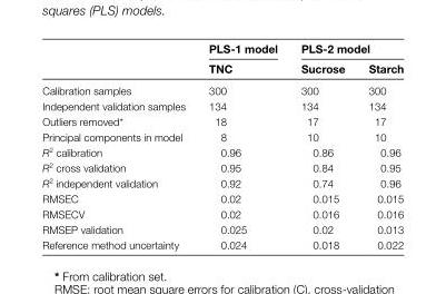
<table><thead><tr><td rowspan="2"></td><td rowspan="2">PLS-1 model TNC</td><td colspan="2">PLS-2 model</td></tr><tr><td>Sucrose</td><td>Starch</td></tr></thead><tbody><tr><td>Calibration samples</td><td>300</td><td>300</td><td>300</td></tr><tr><td>Independent validation samples</td><td>134</td><td>134</td><td>134</td></tr><tr><td>Outliers removed*</td><td>18</td><td>17</td><td>17</td></tr><tr><td>Principal components in model</td><td>8</td><td>10</td><td>10</td></tr><tr><td>R<sup>2</sup> calibration</td><td>0.96</td><td>0.86</td><td>0.96</td></tr><tr><td>R<sup>2</sup> cross validation</td><td>0.95</td><td>0.84</td><td>0.95</td></tr><tr><td>R<sup>2</sup> independent validation</td><td>0.92</td><td>0.74</td><td>0.96</td></tr><tr><td>RMSEC</td><td>0.02</td><td>0.015</td><td>0.015</td></tr><tr><td>RMSECV</td><td>0.02</td><td>0.016</td><td>0.016</td></tr><tr><td>RMSEP validation</td><td>0.025</td><td>0.02</td><td>0.013</td></tr><tr><td>Reference method uncertainty</td><td>0.024</td><td>0.018</td><td>0.022</td></tr></tbody></table>